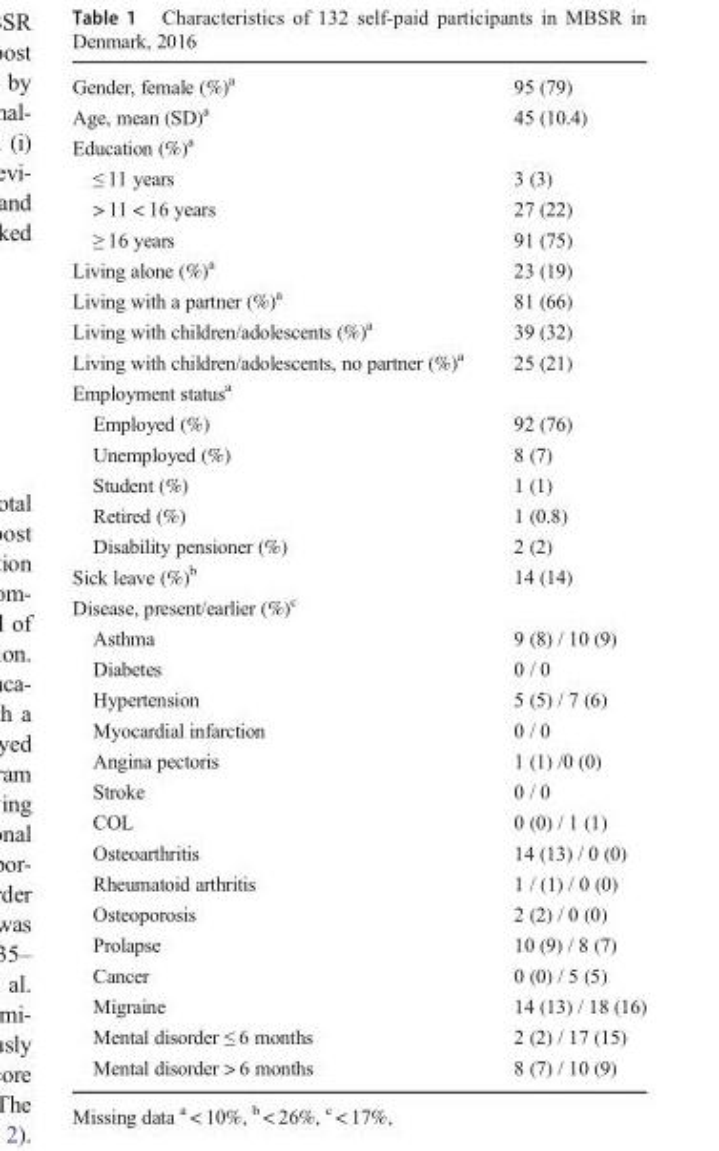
<table><tbody><tr><td>Gender, female (%)<sup>a</sup></td><td>95 (79)</td></tr><tr><td>Age, mean (SD)<sup>a</sup></td><td>45 (10.4)</td></tr><tr><td colspan="2">Education (%)<sup>a</sup></td></tr><tr><td>≤ 11 years</td><td>3 (3)</td></tr><tr><td>&gt; 11 &lt; 16 years</td><td>27 (22)</td></tr><tr><td>≥ 16 years</td><td>91 (75)</td></tr><tr><td>Living alone (%)<sup>a</sup></td><td>23 (19)</td></tr><tr><td>Living with a partner (%)<sup>a</sup></td><td>81 (66)</td></tr><tr><td>Living with children/adolescents (%)<sup>a</sup></td><td>39 (32)</td></tr><tr><td>Living with children/adolescents, no partner (%)<sup>a</sup></td><td>25 (21)</td></tr><tr><td colspan="2">Employment status<sup>a</sup></td></tr><tr><td>Employed (%)</td><td>92 (76)</td></tr><tr><td>Unemployed (%)</td><td>8 (7)</td></tr><tr><td>Student (%)</td><td>1 (1)</td></tr><tr><td>Retired (%)</td><td>1 (0.8)</td></tr><tr><td>Disability pensioner (%)</td><td>2 (2)</td></tr><tr><td>Sick leave (%)<sup>b</sup></td><td>14 (14)</td></tr><tr><td colspan="2">Disease, present/earlier (%)<sup>c</sup></td></tr><tr><td>Asthma</td><td>9 (8) / 10 (9)</td></tr><tr><td>Diabetes</td><td>0 / 0</td></tr><tr><td>Hypertension</td><td>5 (5) / 7 (6)</td></tr><tr><td>Myocardial infarction</td><td>0 / 0</td></tr><tr><td>Angina pectoris</td><td>1 (1) /0 (0)</td></tr><tr><td>Stroke</td><td>0 / 0</td></tr><tr><td>COL</td><td>0 (0) / 1 (1)</td></tr><tr><td>Osteoarthritis</td><td>14 (13) / 0 (0)</td></tr><tr><td>Rheumatoid arthritis</td><td>1 / (1) / 0 (0)</td></tr><tr><td>Osteoporosis</td><td>2 (2) / 0 (0)</td></tr><tr><td>Prolapse</td><td>10 (9) / 8 (7)</td></tr><tr><td>Cancer</td><td>0 (0) / 5 (5)</td></tr><tr><td>Migraine</td><td>14 (13) / 18 (16)</td></tr><tr><td>Mental disorder ≤ 6 months</td><td>2 (2) / 17 (15)</td></tr><tr><td>Mental disorder &gt; 6 months</td><td>8 (7) / 10 (9)</td></tr></tbody></table>